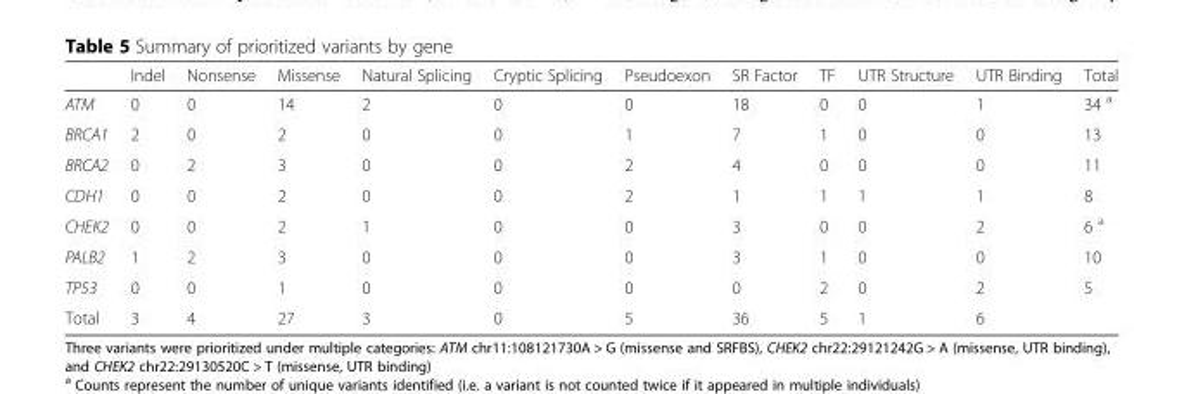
<table><thead><tr><td></td><td>Indel</td><td>Nonsense</td><td>Missense</td><td>Natural Splicing</td><td>Cryptic Splicing</td><td>Pseudoexon</td><td>SR Factor</td><td>TF</td><td>UTR Structure</td><td>UTR Binding</td><td>Total</td></tr></thead><tbody><tr><td>ATM</td><td>0</td><td>0</td><td>14</td><td>2</td><td>0</td><td>0</td><td>18</td><td>0</td><td>0</td><td>1</td><td>34 <sup>a</sup></td></tr><tr><td>BRCA1</td><td>2</td><td>0</td><td>2</td><td>0</td><td>0</td><td>1</td><td>7</td><td>1</td><td>0</td><td>0</td><td>13</td></tr><tr><td>BRCA2</td><td>0</td><td>2</td><td>3</td><td>0</td><td>0</td><td>2</td><td>4</td><td>0</td><td>0</td><td>0</td><td>11</td></tr><tr><td>CDH1</td><td>0</td><td>0</td><td>2</td><td>0</td><td>0</td><td>2</td><td>1</td><td>1</td><td>1</td><td>1</td><td>8</td></tr><tr><td>CHEK2</td><td>0</td><td>0</td><td>2</td><td>1</td><td>0</td><td>0</td><td>3</td><td>0</td><td>0</td><td>2</td><td>6 <sup>a</sup></td></tr><tr><td>PALB2</td><td>1</td><td>2</td><td>3</td><td>0</td><td>0</td><td>0</td><td>3</td><td>1</td><td>0</td><td>0</td><td>10</td></tr><tr><td>TP53</td><td>0</td><td>0</td><td>1</td><td>0</td><td>0</td><td>0</td><td>0</td><td>2</td><td>0</td><td>2</td><td>5</td></tr><tr><td>Total</td><td>3</td><td>4</td><td>27</td><td>3</td><td>0</td><td>5</td><td>36</td><td>5</td><td>1</td><td>6</td><td></td></tr></tbody></table>